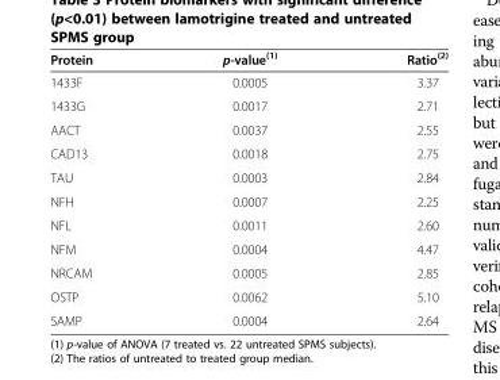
<table><thead><tr><td>Protein</td><td>p-value<sup>(1)</sup></td><td>Ratio<sup>(2)</sup></td></tr></thead><tbody><tr><td>1433F</td><td>0.0005</td><td>3.37</td></tr><tr><td>1433G</td><td>0.0017</td><td>2.71</td></tr><tr><td>AACT</td><td>0.0037</td><td>2.55</td></tr><tr><td>CAD13</td><td>0.0018</td><td>2.75</td></tr><tr><td>TAU</td><td>0.0003</td><td>2.84</td></tr><tr><td>NFH</td><td>0.0007</td><td>2.25</td></tr><tr><td>NFL</td><td>0.0011</td><td>2.60</td></tr><tr><td>NFM</td><td>0.0004</td><td>4.47</td></tr><tr><td>NRCAM</td><td>0.0005</td><td>2.85</td></tr><tr><td>OSTP</td><td>0.0062</td><td>5.10</td></tr><tr><td>SAMP</td><td>0.0004</td><td>2.64</td></tr></tbody></table>